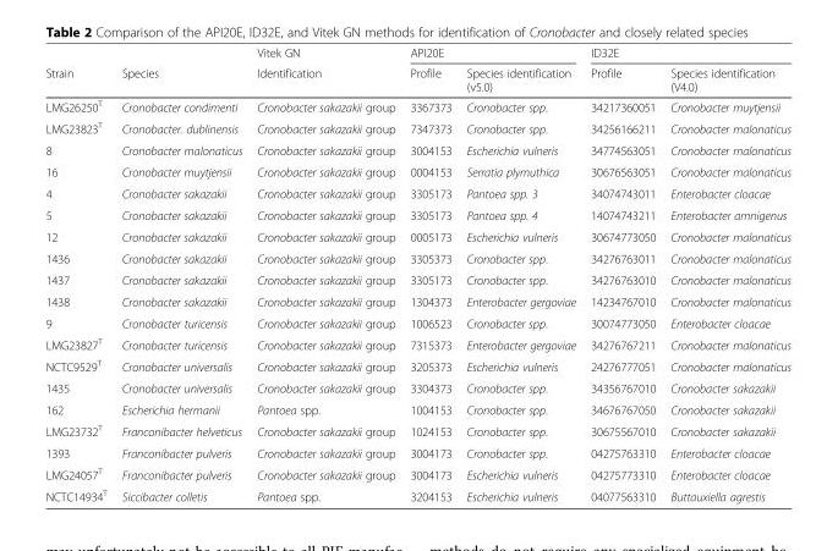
<table><thead><tr><td rowspan="2">Strain</td><td rowspan="2">Species</td><td rowspan="2">Vitek GN Identification</td><td colspan="2">API20E</td><td colspan="2">ID32E</td></tr><tr><td>Profile</td><td>Species identification (v5.0)</td><td>Profile</td><td>Species identification (V4.0)</td></tr></thead><tbody><tr><td>LMG26250<sup>T</sup></td><td>Cronobacter condimenti</td><td>Cronobacter sakazakii group</td><td>3367373</td><td>Cronobacter spp.</td><td>34217360051</td><td>Cronobacter muytjensii</td></tr><tr><td>LMG23823<sup>T</sup></td><td>Cronobacter. dublinensis</td><td>Cronobacter sakazakii group</td><td>7347373</td><td>Cronobacter spp.</td><td>34256166211</td><td>Cronobacter malonaticus</td></tr><tr><td>8</td><td>Cronobacter malonaticus</td><td>Cronobacter sakazakii group</td><td>3004153</td><td>Escherichia vulneris</td><td>34774563051</td><td>Cronobacter malonaticus</td></tr><tr><td>16</td><td>Cronobacter muytjensii</td><td>Cronobacter sakazakii group</td><td>0004153</td><td>Serratia plymuthica</td><td>30676563051</td><td>Cronobacter malonaticus</td></tr><tr><td>4</td><td>Cronobacter sakazakii</td><td>Cronobacter sakazakii group</td><td>3305173</td><td>Pantoea spp. 3</td><td>34074743011</td><td>Enterobacter cloacae</td></tr><tr><td>5</td><td>Cronobacter sakazakii</td><td>Cronobacter sakazakii group</td><td>3305173</td><td>Pantoea spp. 4</td><td>14074743211</td><td>Enterobacter amnigenus</td></tr><tr><td>12</td><td>Cronobacter sakazakii</td><td>Cronobacter sakazakii group</td><td>0005173</td><td>Escherichia vulneris</td><td>30674773050</td><td>Cronobacter malonaticus</td></tr><tr><td>1436</td><td>Cronobacter sakazakii</td><td>Cronobacter sakazakii group</td><td>3305373</td><td>Cronobacter spp.</td><td>34276763011</td><td>Cronobacter malonaticus</td></tr><tr><td>1437</td><td>Cronobacter sakazakii</td><td>Cronobacter sakazakii group</td><td>3305173</td><td>Cronobacter spp.</td><td>34276763010</td><td>Cronobacter malonaticus</td></tr><tr><td>1438</td><td>Cronobacter sakazakii</td><td>Cronobacter sakazakii group</td><td>1304373</td><td>Enterobacter gergoviae</td><td>14234767010</td><td>Cronobacter malonaticus</td></tr><tr><td>9</td><td>Cronobacter turicensis</td><td>Cronobacter sakazakii group</td><td>1006523</td><td>Cronobacter spp.</td><td>30074773050</td><td>Enterobacter cloacae</td></tr><tr><td>LMG23827<sup>T</sup></td><td>Cronobacter turicensis</td><td>Cronobacter sakazakii group</td><td>7315373</td><td>Enterobacter gergoviae</td><td>34276767211</td><td>Cronobacter malonaticus</td></tr><tr><td>NCTC9529<sup>T</sup></td><td>Cronobacter universalis</td><td>Cronobacter sakazakii group</td><td>3205373</td><td>Escherichia vulneris</td><td>24276777051</td><td>Cronobacter malonaticus</td></tr><tr><td>1435</td><td>Cronobacter universalis</td><td>Cronobacter sakazakii group</td><td>3304373</td><td>Cronobacter spp.</td><td>34356767010</td><td>Cronobacter sakazakii</td></tr><tr><td>162</td><td>Escherichia hermanii</td><td>Pantoea spp.</td><td>1004153</td><td>Cronobacter spp.</td><td>34676767050</td><td>Cronobacter sakazakii</td></tr><tr><td>LMG23732<sup>T</sup></td><td>Franconibacter helveticus</td><td>Cronobacter sakazakii group</td><td>1024153</td><td>Cronobacter spp.</td><td>30675567010</td><td>Cronobacter sakazakii</td></tr><tr><td>1393</td><td>Franconibacter pulveris</td><td>Cronobacter sakazakii group</td><td>3004173</td><td>Cronobacter spp.</td><td>04275763310</td><td>Enterobacter cloacae</td></tr><tr><td>LMG24057<sup>T</sup></td><td>Franconibacter pulveris</td><td>Cronobacter sakazakii group</td><td>3004173</td><td>Escherichia vulneris</td><td>04275773310</td><td>Enterobacter cloacae</td></tr><tr><td>NCTC14934<sup>T</sup></td><td>Siccibacter colletis</td><td>Pantoea spp.</td><td>3204153</td><td>Escherichia vulneris</td><td>04077563310</td><td>Buttauxiella agrestis</td></tr></tbody></table>